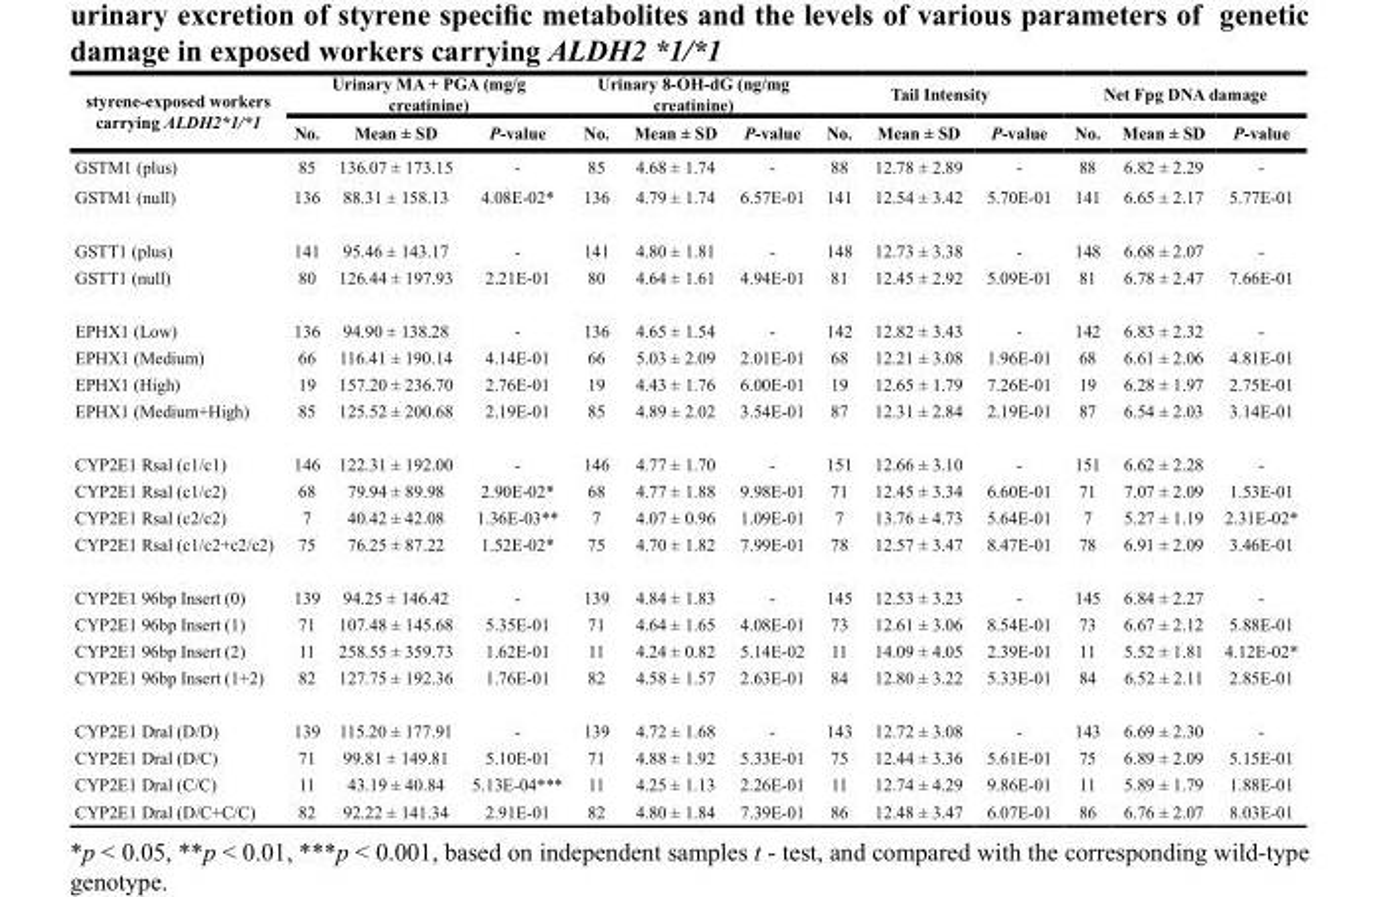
<table><thead><tr><td rowspan="2">styrene-exposed workers carrying ALDH2*1/*1</td><td colspan="3">Urinary MA + PGA (mg/g creatinine)</td><td colspan="3">Urinary 8-OH-dG (ng/mg creatinine)</td><td colspan="3">Tail Intensity</td><td colspan="3">Net Fpg DNA damage</td></tr><tr><td>No.</td><td>Mean ± SD</td><td>P-value</td><td>No.</td><td>Mean ± SD</td><td>P-value</td><td>No.</td><td>Mean ± SD</td><td>P-value</td><td>No.</td><td>Mean ± SD</td><td>P-value</td></tr></thead><tbody><tr><td>GSTM1 (plus)</td><td>85</td><td>136.07 ± 173.15</td><td>-</td><td>85</td><td>4.68 ± 1.74</td><td>-</td><td>88</td><td>12.78 ± 2.89</td><td>-</td><td>88</td><td>6.82 ± 2.29</td><td>-</td></tr><tr><td>GSTM1 (null)</td><td>136</td><td>88.31 ± 158.13</td><td>4.08E-02*</td><td>136</td><td>4.79 ± 1.74</td><td>6.57E-01</td><td>141</td><td>12.54 ± 3.42</td><td>5.70E-01</td><td>141</td><td>6.65 ± 2.17</td><td>5.77E-01</td></tr><tr><td>GSTT1 (plus)</td><td>141</td><td>95.46 ± 143.17</td><td>-</td><td>141</td><td>4.80 ± 1.81</td><td>-</td><td>148</td><td>12.73 ± 3.38</td><td>-</td><td>148</td><td>6.68 ± 2.07</td><td>-</td></tr><tr><td>GSTT1 (null)</td><td>80</td><td>126.44 ± 197.93</td><td>2.21E-01</td><td>80</td><td>4.64 ± 1.61</td><td>4.94E-01</td><td>81</td><td>12.45 ± 2.92</td><td>5.09E-01</td><td>81</td><td>6.78 ± 2.47</td><td>7.66E-01</td></tr><tr><td>EPHX1 (Low)</td><td>136</td><td>94.90 ± 138.28</td><td>-</td><td>136</td><td>4.65 ± 1.54</td><td>-</td><td>142</td><td>12.82 ± 3.43</td><td>-</td><td>142</td><td>6.83 ± 2.32</td><td>-</td></tr><tr><td>EPHX1 (Medium)</td><td>66</td><td>116.41 ± 190.14</td><td>4.14E-01</td><td>66</td><td>5.03 ± 2.09</td><td>2.01E-01</td><td>68</td><td>12.21 ± 3.08</td><td>1.96E-01</td><td>68</td><td>6.61 ± 2.06</td><td>4.81E-01</td></tr><tr><td>EPHX1 (High)</td><td>19</td><td>157.20 ± 236.70</td><td>2.76E-01</td><td>19</td><td>4.43 ± 1.76</td><td>6.00E-01</td><td>19</td><td>12.65 ± 1.79</td><td>7.26E-01</td><td>19</td><td>6.28 ± 1.97</td><td>2.75E-01</td></tr><tr><td>EPHX1 (Medium+High)</td><td>85</td><td>125.52 ± 200.68</td><td>2.19E-01</td><td>85</td><td>4.89 ± 2.02</td><td>3.54E-01</td><td>87</td><td>12.31 ± 2.84</td><td>2.19E-01</td><td>87</td><td>6.54 ± 2.03</td><td>3.14E-01</td></tr><tr><td>CYP2E1 Rsal (c1/c1)</td><td>146</td><td>122.31 ± 192.00</td><td>-</td><td>146</td><td>4.77 ± 1.70</td><td>-</td><td>151</td><td>12.66 ± 3.10</td><td>-</td><td>151</td><td>6.62 ± 2.28</td><td>-</td></tr><tr><td>CYP2E1 Rsal (c1/c2)</td><td>68</td><td>79.94 ± 89.98</td><td>2.90E-02*</td><td>68</td><td>4.77 ± 1.88</td><td>9.98E-01</td><td>71</td><td>12.45 ± 3.34</td><td>6.60E-01</td><td>71</td><td>7.07 ± 2.09</td><td>1.53E-01</td></tr><tr><td>CYP2E1 Rsal (c2/c2)</td><td>7</td><td>40.42 ± 42.08</td><td>1.36E-03**</td><td>7</td><td>4.07 ± 0.96</td><td>1.09E-01</td><td>7</td><td>13.76 ± 4.73</td><td>5.64E-01</td><td>7</td><td>5.27 ± 1.19</td><td>2.31E-02*</td></tr><tr><td>CYP2E1 Rsal (c1/c2+c2/c2)</td><td>75</td><td>76.25 ± 87.22</td><td>1.52E-02*</td><td>75</td><td>4.70 ± 1.82</td><td>7.99E-01</td><td>78</td><td>12.57 ± 3.47</td><td>8.47E-01</td><td>78</td><td>6.91 ± 2.09</td><td>3.46E-01</td></tr><tr><td>CYP2E1 96bp Insert (0)</td><td>139</td><td>94.25 ± 146.42</td><td>-</td><td>139</td><td>4.84 ± 1.83</td><td>-</td><td>145</td><td>12.53 ± 3.23</td><td>-</td><td>145</td><td>6.84 ± 2.27</td><td>-</td></tr><tr><td>CYP2E1 96bp Insert (1)</td><td>71</td><td>107.48 ± 145.68</td><td>5.35E-01</td><td>71</td><td>4.64 ± 1.65</td><td>4.08E-01</td><td>73</td><td>12.61 ± 3.06</td><td>8.54E-01</td><td>73</td><td>6.67 ± 2.12</td><td>5.88E-01</td></tr><tr><td>CYP2E1 96bp Insert (2)</td><td>11</td><td>258.55 ± 359.73</td><td>1.62E-01</td><td>11</td><td>4.24 ± 0.82</td><td>5.14E-02</td><td>11</td><td>14.09 ± 4.05</td><td>2.39E-01</td><td>11</td><td>5.52 ± 1.81</td><td>4.12E-02*</td></tr><tr><td>CYP2E1 96bp Insert (1+2)</td><td>82</td><td>127.75 ± 192.36</td><td>1.76E-01</td><td>82</td><td>4.58 ± 1.57</td><td>2.63E-01</td><td>84</td><td>12.80 ± 3.22</td><td>5.33E-01</td><td>84</td><td>6.52 ± 2.11</td><td>2.85E-01</td></tr><tr><td>CYP2E1 Dral (D/D)</td><td>139</td><td>115.20 ± 177.91</td><td>-</td><td>139</td><td>4.72 ± 1.68</td><td>-</td><td>143</td><td>12.72 ± 3.08</td><td>-</td><td>143</td><td>6.69 ± 2.30</td><td>-</td></tr><tr><td>CYP2E1 Dral (D/C)</td><td>71</td><td>99.81 ± 149.81</td><td>5.10E-01</td><td>71</td><td>4.88 ± 1.92</td><td>5.33E-01</td><td>75</td><td>12.44 ± 3.36</td><td>5.61E-01</td><td>75</td><td>6.89 ± 2.09</td><td>5.15E-01</td></tr><tr><td>CYP2E1 Dral (C/C)</td><td>11</td><td>43.19 ± 40.84</td><td>5.13E-04***</td><td>11</td><td>4.25 ± 1.13</td><td>2.26E-01</td><td>11</td><td>12.74 ± 4.29</td><td>9.86E-01</td><td>11</td><td>5.89 ± 1.79</td><td>1.88E-01</td></tr><tr><td>CYP2E1 Dral (D/C+C/C)</td><td>82</td><td>92.22 ± 141.34</td><td>2.91E-01</td><td>82</td><td>4.80 ± 1.84</td><td>7.39E-01</td><td>86</td><td>12.48 ± 3.47</td><td>6.07E-01</td><td>86</td><td>6.76 ± 2.07</td><td>8.03E-01</td></tr></tbody></table>